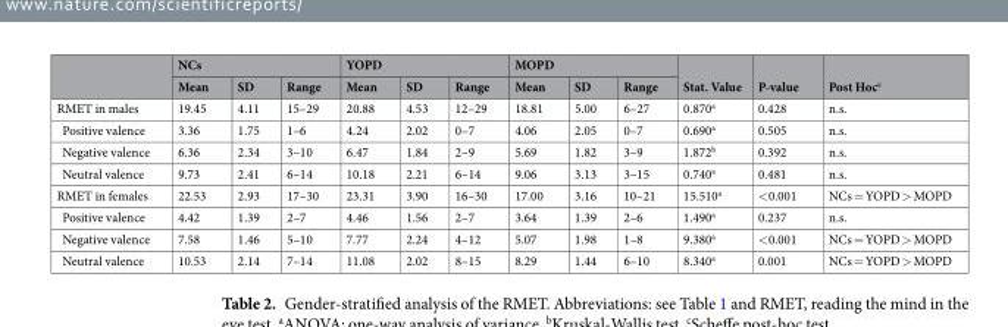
<table><thead><tr><td rowspan="2"></td><td colspan="3">NCs</td><td colspan="3">YOPD</td><td colspan="3">MOPD</td><td rowspan="2">Stat. Value</td><td rowspan="2">P-value</td><td rowspan="2">Post Hoc<sup>c</sup></td></tr><tr><td>Mean</td><td>SD</td><td>Range</td><td>Mean</td><td>SD</td><td>Range</td><td>Mean</td><td>SD</td><td>Range</td></tr></thead><tbody><tr><td>RMET in males</td><td>19.45</td><td>4.11</td><td>15–29</td><td>20.88</td><td>4.53</td><td>12–29</td><td>18.81</td><td>5.00</td><td>6–27</td><td>0.870<sup>a</sup></td><td>0.428</td><td>n.s.</td></tr><tr><td>Positive valence</td><td>3.36</td><td>1.75</td><td>1–6</td><td>4.24</td><td>2.02</td><td>0–7</td><td>4.06</td><td>2.05</td><td>0–7</td><td>0.690<sup>a</sup></td><td>0.505</td><td>n.s.</td></tr><tr><td>Negative valence</td><td>6.36</td><td>2.34</td><td>3–10</td><td>6.47</td><td>1.84</td><td>2–9</td><td>5.69</td><td>1.82</td><td>3–9</td><td>1.872<sup>b</sup></td><td>0.392</td><td>n.s.</td></tr><tr><td>Neutral valence</td><td>9.73</td><td>2.41</td><td>6–14</td><td>10.18</td><td>2.21</td><td>6–14</td><td>9.06</td><td>3.13</td><td>3–15</td><td>0.740<sup>a</sup></td><td>0.481</td><td>n.s.</td></tr><tr><td>RMET in females</td><td>22.53</td><td>2.93</td><td>17–30</td><td>23.31</td><td>3.90</td><td>16–30</td><td>17.00</td><td>3.16</td><td>10–21</td><td>15.510<sup>a</sup></td><td>&lt;0.001</td><td>NCs = YOPD &gt; MOPD</td></tr><tr><td>Positive valence</td><td>4.42</td><td>1.39</td><td>2–7</td><td>4.46</td><td>1.56</td><td>2–7</td><td>3.64</td><td>1.39</td><td>2–6</td><td>1.490<sup>a</sup></td><td>0.237</td><td>n.s.</td></tr><tr><td>Negative valence</td><td>7.58</td><td>1.46</td><td>5–10</td><td>7.77</td><td>2.24</td><td>4–12</td><td>5.07</td><td>1.98</td><td>1–8</td><td>9.380<sup>a</sup></td><td>&lt;0.001</td><td>NCs = YOPD &gt; MOPD</td></tr><tr><td>Neutral valence</td><td>10.53</td><td>2.14</td><td>7–14</td><td>11.08</td><td>2.02</td><td>8–15</td><td>8.29</td><td>1.44</td><td>6–10</td><td>8.340<sup>a</sup></td><td>0.001</td><td>NCs = YOPD &gt; MOPD</td></tr></tbody></table>